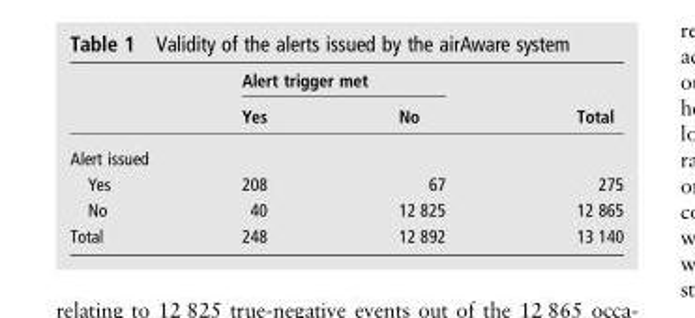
<table><thead><tr><td rowspan="2"></td><td colspan="2">Alert trigger met</td><td rowspan="2">Total</td></tr><tr><td>Yes</td><td>No</td></tr></thead><tbody><tr><td colspan="4">Alert issued</td></tr><tr><td>Yes</td><td>208</td><td>67</td><td>275</td></tr><tr><td>No</td><td>40</td><td>12 825</td><td>12 865</td></tr><tr><td>Total</td><td>248</td><td>12 892</td><td>13 140</td></tr></tbody></table>